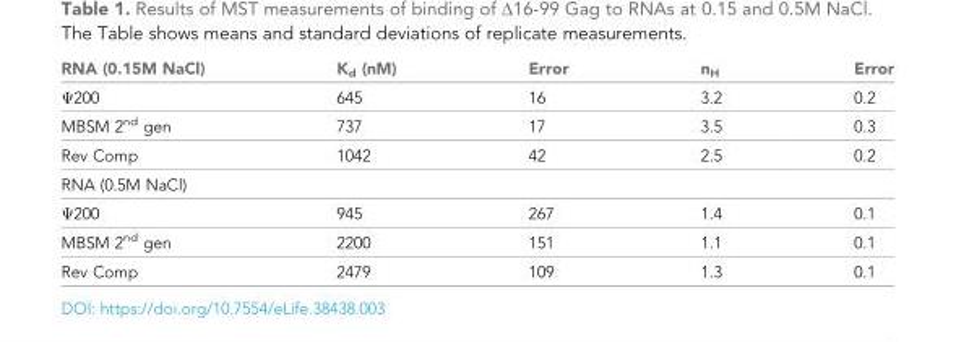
<table><thead><tr><td>RNA (0.15M NaCl)</td><td>K<sub>d</sub> (nM)</td><td>Error</td><td>n<sub>H</sub></td><td>Error</td></tr></thead><tbody><tr><td>Ψ200</td><td>645</td><td>16</td><td>3.2</td><td>0.2</td></tr><tr><td>MBSM 2<sup>nd</sup> gen</td><td>737</td><td>17</td><td>3.5</td><td>0.3</td></tr><tr><td>Rev Comp</td><td>1042</td><td>42</td><td>2.5</td><td>0.2</td></tr><tr><td colspan="5">RNA (0.5M NaCl)</td></tr><tr><td>Ψ200</td><td>945</td><td>267</td><td>1.4</td><td>0.1</td></tr><tr><td>MBSM 2<sup>nd</sup> gen</td><td>2200</td><td>151</td><td>1.1</td><td>0.1</td></tr><tr><td>Rev Comp</td><td>2479</td><td>109</td><td>1.3</td><td>0.1</td></tr></tbody></table>